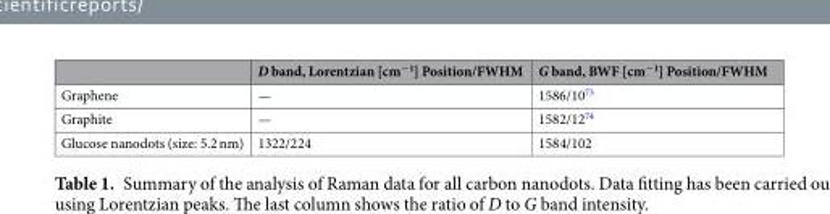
<table><thead><tr><td></td><td>D band, Lorentzian [cm<sup>−1</sup>] Position/FWHM</td><td>G band, BWF [cm<sup>−1</sup>] Position/FWHM</td></tr></thead><tbody><tr><td>Graphene</td><td>—</td><td>1586/10<sup>73</sup></td></tr><tr><td>Graphite</td><td>—</td><td>1582/12<sup>74</sup></td></tr><tr><td>Glucose nanodots (size: 5.2 nm)</td><td>1322/224</td><td>1584/102</td></tr></tbody></table>